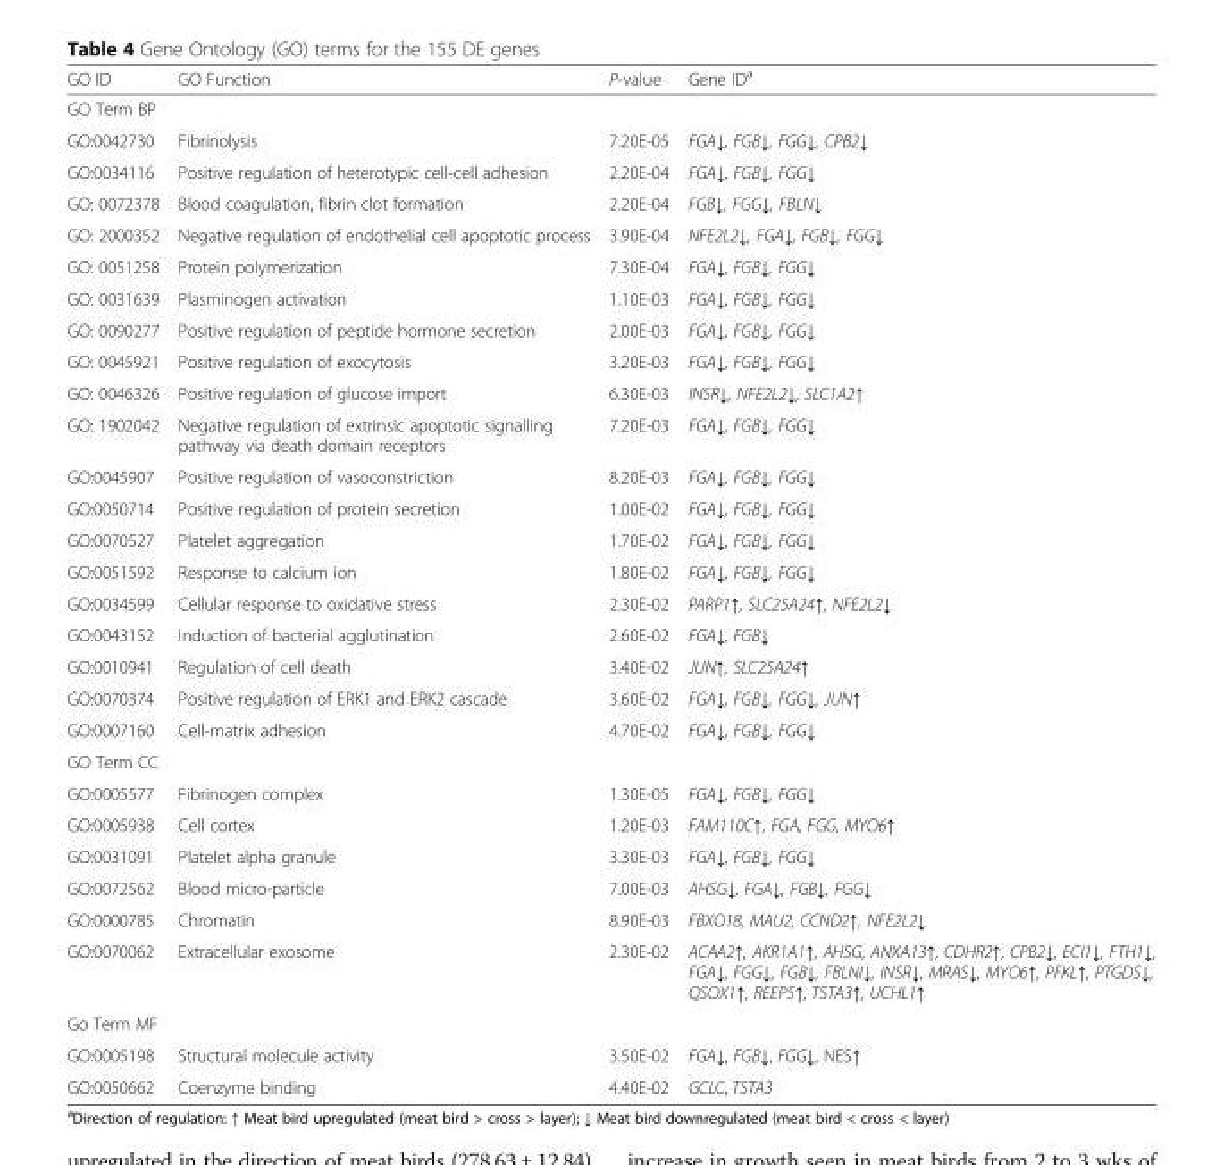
<table><thead><tr><td>GO ID</td><td>GO Function</td><td>P-value</td><td>Gene ID<sup>a</sup></td></tr></thead><tbody><tr><td colspan="4">GO Term BP</td></tr><tr><td>GO:0042730</td><td>Fibrinolysis</td><td>7.20E-05</td><td>FGA↓, FGB↓, FGG↓, CPB2↓</td></tr><tr><td>GO:0034116</td><td>Positive regulation of heterotypic cell-cell adhesion</td><td>2.20E-04</td><td>FGA↓, FGB↓, FGG↓</td></tr><tr><td>GO: 0072378</td><td>Blood coagulation, fibrin clot formation</td><td>2.20E-04</td><td>FGB↓, FGG↓, FBLN↓</td></tr><tr><td>GO: 2000352</td><td>Negative regulation of endothelial cell apoptotic process</td><td>3.90E-04</td><td>NFE2L2↓, FGA↓, FGB↓, FGG↓</td></tr><tr><td>GO: 0051258</td><td>Protein polymerization</td><td>7.30E-04</td><td>FGA↓, FGB↓, FGG↓</td></tr><tr><td>GO: 0031639</td><td>Plasminogen activation</td><td>1.10E-03</td><td>FGA↓, FGB↓, FGG↓</td></tr><tr><td>GO: 0090277</td><td>Positive regulation of peptide hormone secretion</td><td>2.00E-03</td><td>FGA↓, FGB↓, FGG↓</td></tr><tr><td>GO: 0045921</td><td>Positive regulation of exocytosis</td><td>3.20E-03</td><td>FGA↓, FGB↓, FGG↓</td></tr><tr><td>GO: 0046326</td><td>Positive regulation of glucose import</td><td>6.30E-03</td><td>INSR↓, NFE2L2↓, SLC1A2↑</td></tr><tr><td>GO: 1902042</td><td>Negative regulation of extrinsic apoptotic signalling pathway via death domain receptors</td><td>7.20E-03</td><td>FGA↓, FGB↓, FGG↓</td></tr><tr><td>GO:0045907</td><td>Positive regulation of vasoconstriction</td><td>8.20E-03</td><td>FGA↓, FGB↓, FGG↓</td></tr><tr><td>GO:0050714</td><td>Positive regulation of protein secretion</td><td>1.00E-02</td><td>FGA↓, FGB↓, FGG↓</td></tr><tr><td>GO:0070527</td><td>Platelet aggregation</td><td>1.70E-02</td><td>FGA↓, FGB↓, FGG↓</td></tr><tr><td>GO:0051592</td><td>Response to calcium ion</td><td>1.80E-02</td><td>FGA↓, FGB↓, FGG↓</td></tr><tr><td>GO:0034599</td><td>Cellular response to oxidative stress</td><td>2.30E-02</td><td>PARP1↑, SLC25A24↑, NFE2L2↓</td></tr><tr><td>GO:0043152</td><td>Induction of bacterial agglutination</td><td>2.60E-02</td><td>FGA↓, FGB↓</td></tr><tr><td>GO:0010941</td><td>Regulation of cell death</td><td>3.40E-02</td><td>JUN↑, SLC25A24↑</td></tr><tr><td>GO:0070374</td><td>Positive regulation of ERK1 and ERK2 cascade</td><td>3.60E-02</td><td>FGA↓, FGB↓, FGG↓, JUN↑</td></tr><tr><td>GO:0007160</td><td>Cell-matrix adhesion</td><td>4.70E-02</td><td>FGA↓, FGB↓, FGG↓</td></tr><tr><td colspan="4">GO Term CC</td></tr><tr><td>GO:0005577</td><td>Fibrinogen complex</td><td>1.30E-05</td><td>FGA↓, FGB↓, FGG↓</td></tr><tr><td>GO:0005938</td><td>Cell cortex</td><td>1.20E-03</td><td>FAM110C↑, FGA, FGG, MYO6↑</td></tr><tr><td>GO:0031091</td><td>Platelet alpha granule</td><td>3.30E-03</td><td>FGA↓, FGB↓, FGG↓</td></tr><tr><td>GO:0072562</td><td>Blood micro-particle</td><td>7.00E-03</td><td>AHSG↓, FGA↓, FGB↓, FGG↓</td></tr><tr><td>GO:0000785</td><td>Chromatin</td><td>8.90E-03</td><td>FBXO18, MAU2, CCND2↑, NFE2L2↓</td></tr><tr><td>GO:0070062</td><td>Extracellular exosome</td><td>2.30E-02</td><td>ACAA2↑, AKR1A1↑, AHSG, ANXA13↑, CDHR2↑, CPB2↓, ECI1↓, FTH1↓, FGA↓, FGG↓, FGB↓, FBLNI↓, INSR↓, MRAS↓, MYO6↑, PFKL↑, PTGDS↓, QSOX1↑, REEP5↑, TSTA3↑, UCHL1↑</td></tr><tr><td colspan="4">Go Term MF</td></tr><tr><td>GO:0005198</td><td>Structural molecule activity</td><td>3.50E-02</td><td>FGA↓, FGB↓, FGG↓, NES↑</td></tr><tr><td>GO:0050662</td><td>Coenzyme binding</td><td>4.40E-02</td><td>GCLC, TSTA3</td></tr></tbody></table>